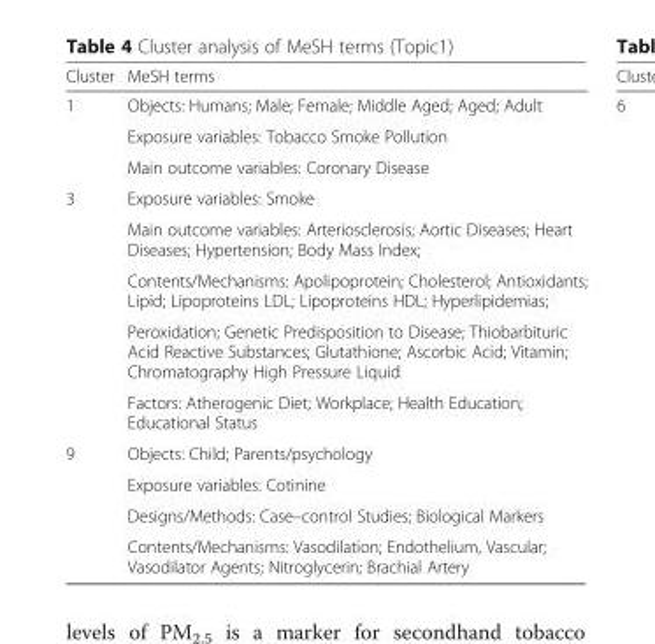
<table><thead><tr><td>Cluster</td><td>MeSH terms</td></tr></thead><tbody><tr><td rowspan="3">1</td><td>Objects: Humans; Male; Female; Middle Aged; Aged; Adult</td></tr><tr><td>Exposure variables: Tobacco Smoke Pollution</td></tr><tr><td>Main outcome variables: Coronary Disease</td></tr><tr><td rowspan="5">3</td><td>Exposure variables: Smoke</td></tr><tr><td>Main outcome variables: Arteriosclerosis; Aortic Diseases; Heart Diseases; Hypertension; Body Mass Index;</td></tr><tr><td>Contents/Mechanisms: Apolipoprotein; Cholesterol; Antioxidants; Lipid; Lipoproteins LDL; Lipoproteins HDL; Hyperlipidemias;</td></tr><tr><td>Peroxidation; Genetic Predisposition to Disease; Thiobarbituric Acid Reactive Substances; Glutathione; Ascorbic Acid; Vitamin; Chromatography High Pressure Liquid</td></tr><tr><td>Factors: Atherogenic Diet; Workplace; Health Education; Educational Status</td></tr><tr><td rowspan="4">9</td><td>Objects: Child; Parents/psychology</td></tr><tr><td>Exposure variables: Cotinine</td></tr><tr><td>Designs/Methods: Case–control Studies; Biological Markers</td></tr><tr><td>Contents/Mechanisms: Vasodilation; Endothelium, Vascular; Vasodilator Agents; Nitroglycerin; Brachial Artery</td></tr></tbody></table>